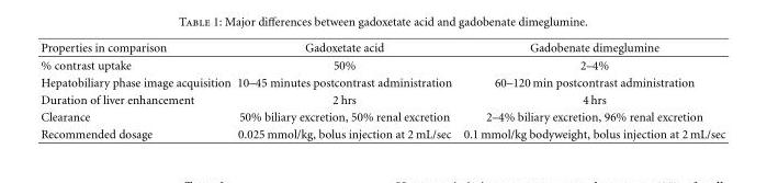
<table><thead><tr><td>Properties in comparison</td><td>Gadoxetate acid</td><td>Gadobenate dimeglumine</td></tr></thead><tbody><tr><td>% contrast uptake</td><td>50%</td><td>2–4%</td></tr><tr><td>Hepatobiliary phase image acquisition</td><td>10–45 minutes postcontrast administration</td><td>60–120 min postcontrast administration</td></tr><tr><td>Duration of liver enhancement</td><td>2 hrs</td><td>4 hrs</td></tr><tr><td>Clearance</td><td>50% biliary excretion, 50% renal excretion</td><td>2–4% biliary excretion, 96% renal excretion</td></tr><tr><td>Recommended dosage</td><td>0.025 mmol/kg, bolus injection at 2 mL/sec</td><td>0.1 mmol/kg bodyweight, bolus injection at 2 mL/sec</td></tr></tbody></table>